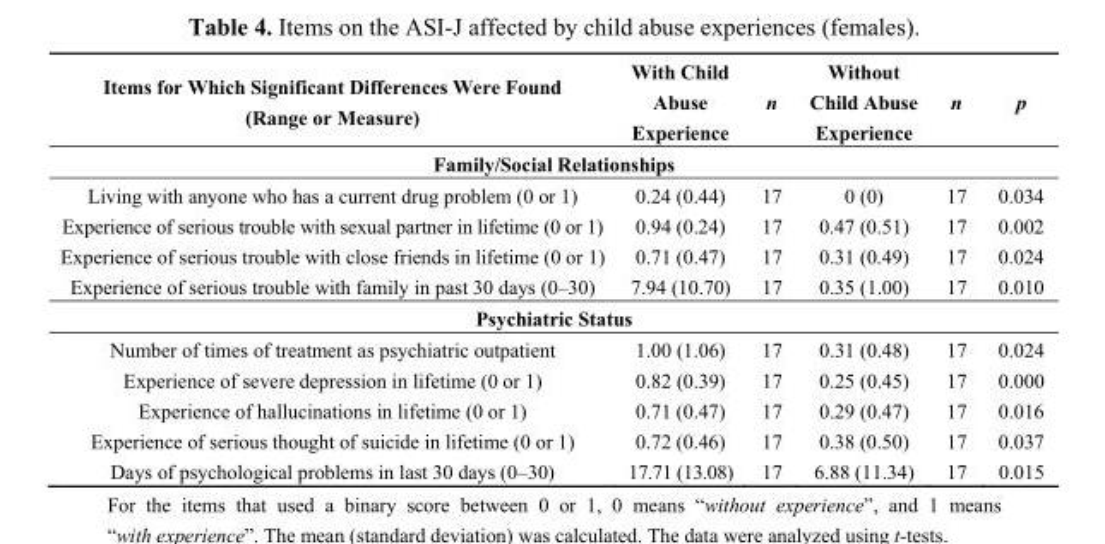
<table><thead><tr><td>Items for Which Significant Differences Were Found (Range or Measure)</td><td>With Child Abuse Experience</td><td>n</td><td>Without Child Abuse Experience</td><td>n</td><td>p</td></tr></thead><tbody><tr><td colspan="6">Family/Social Relationships</td></tr><tr><td>Living with anyone who has a current drug problem (0 or 1)</td><td>0.24 (0.44)</td><td>17</td><td>0 (0)</td><td>17</td><td>0.034</td></tr><tr><td>Experience of serious trouble with sexual partner in lifetime (0 or 1)</td><td>0.94 (0.24)</td><td>17</td><td>0.47 (0.51)</td><td>17</td><td>0.002</td></tr><tr><td>Experience of serious trouble with close friends in lifetime (0 or 1)</td><td>0.71 (0.47)</td><td>17</td><td>0.31 (0.49)</td><td>17</td><td>0.024</td></tr><tr><td>Experience of serious trouble with family in past 30 days (0–30)</td><td>7.94 (10.70)</td><td>17</td><td>0.35 (1.00)</td><td>17</td><td>0.010</td></tr><tr><td colspan="6">Psychiatric Status</td></tr><tr><td>Number of times of treatment as psychiatric outpatient</td><td>1.00 (1.06)</td><td>17</td><td>0.31 (0.48)</td><td>17</td><td>0.024</td></tr><tr><td>Experience of severe depression in lifetime (0 or 1)</td><td>0.82 (0.39)</td><td>17</td><td>0.25 (0.45)</td><td>17</td><td>0.000</td></tr><tr><td>Experience of hallucinations in lifetime (0 or 1)</td><td>0.71 (0.47)</td><td>17</td><td>0.29 (0.47)</td><td>17</td><td>0.016</td></tr><tr><td>Experience of serious thought of suicide in lifetime (0 or 1)</td><td>0.72 (0.46)</td><td>17</td><td>0.38 (0.50)</td><td>17</td><td>0.037</td></tr><tr><td>Days of psychological problems in last 30 days (0–30)</td><td>17.71 (13.08)</td><td>17</td><td>6.88 (11.34)</td><td>17</td><td>0.015</td></tr></tbody></table>